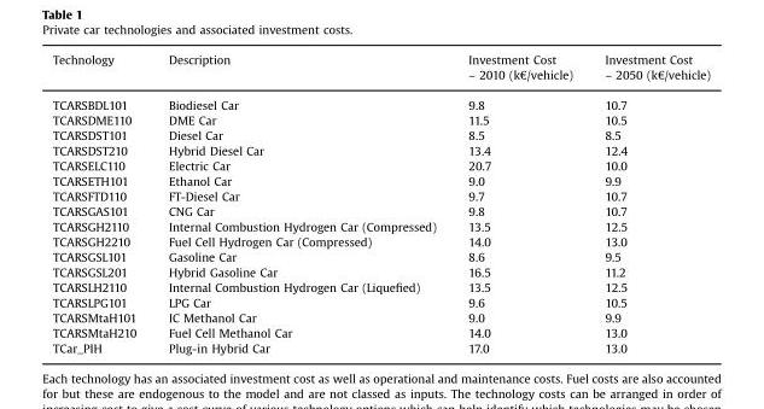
<table><thead><tr><td>Technology</td><td>Description</td><td>Investment Cost – 2010 (k€/vehicle)</td><td>Investment Cost – 2050 (k€/vehicle)</td></tr></thead><tbody><tr><td>TCARSBDL101</td><td>Biodiesel Car</td><td>9.8</td><td>10.7</td></tr><tr><td>TCARSDME110</td><td>DME Car</td><td>11.5</td><td>10.5</td></tr><tr><td>TCARSDST101</td><td>Diesel Car</td><td>8.5</td><td>8.5</td></tr><tr><td>TCARSDST210</td><td>Hybrid Diesel Car</td><td>13.4</td><td>12.4</td></tr><tr><td>TCARSELC110</td><td>Electric Car</td><td>20.7</td><td>10.0</td></tr><tr><td>TCARSETH101</td><td>Ethanol Car</td><td>9.0</td><td>9.9</td></tr><tr><td>TCARSFTD110</td><td>FT-Diesel Car</td><td>9.7</td><td>10.7</td></tr><tr><td>TCARSGAS101</td><td>CNG Car</td><td>9.8</td><td>10.7</td></tr><tr><td>TCARSGH2110</td><td>Internal Combustion Hydrogen Car (Compressed)</td><td>13.5</td><td>12.5</td></tr><tr><td>TCARSGH2210</td><td>Fuel Cell Hydrogen Car (Compressed)</td><td>14.0</td><td>13.0</td></tr><tr><td>TCARSGSL101</td><td>Gasoline Car</td><td>8.6</td><td>9.5</td></tr><tr><td>TCARSGSL201</td><td>Hybrid Gasoline Car</td><td>16.5</td><td>11.2</td></tr><tr><td>TCARSLH2110</td><td>Internal Combustion Hydrogen Car (Liquefied)</td><td>13.5</td><td>12.5</td></tr><tr><td>TCARSLPG101</td><td>LPG Car</td><td>9.6</td><td>10.5</td></tr><tr><td>TCARSMtaH101</td><td>IC Methanol Car</td><td>9.0</td><td>9.9</td></tr><tr><td>TCARSMtaH210</td><td>Fuel Cell Methanol Car</td><td>14.0</td><td>13.0</td></tr><tr><td>TCar_PIH</td><td>Plug-in Hybrid Car</td><td>17.0</td><td>13.0</td></tr></tbody></table>